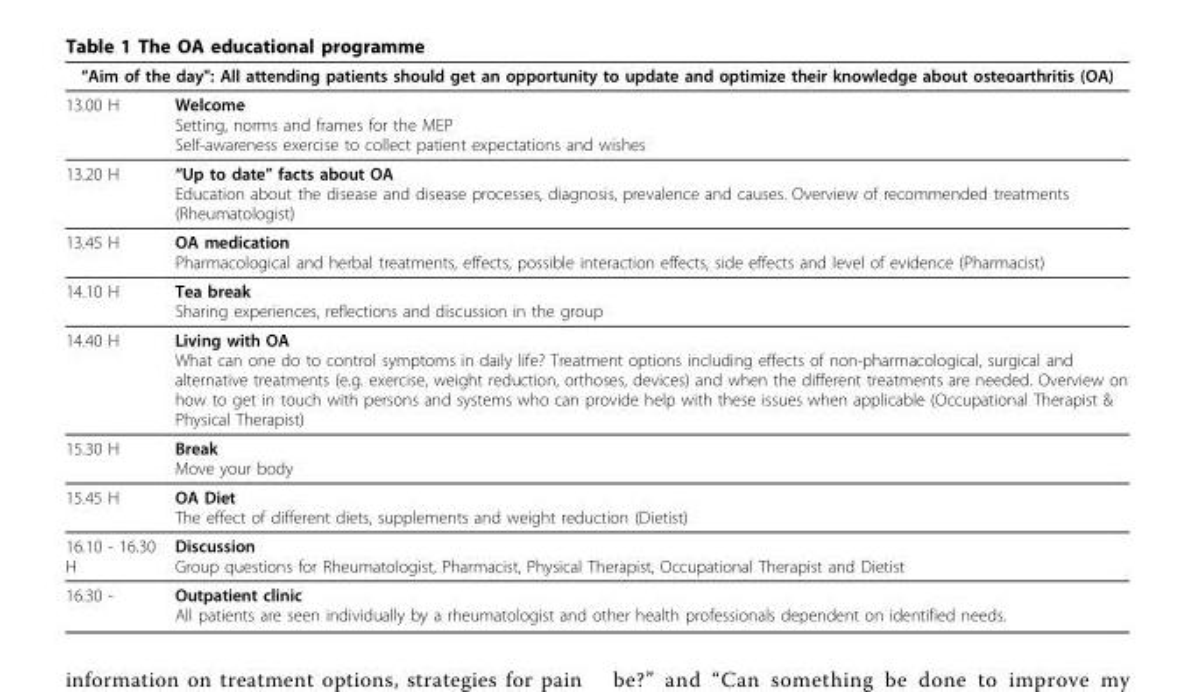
<table><thead><tr><td colspan="2">“Aim of the day&quot;: All attending patients should get an opportunity to update and optimize their knowledge about osteoarthritis (OA)</td></tr><tr><td>13.00 H</td><td>Welcome Setting, norms and frames for the MEP Self-awareness exercise to collect patient expectations and wishes</td></tr></thead><tbody><tr><td>13.20 H</td><td>“Up to date” facts about OA Education about the disease and disease processes, diagnosis, prevalence and causes. Overview of recommended treatments (Rheumatologist)</td></tr><tr><td>13.45 H</td><td>OA medication Pharmacological and herbal treatments, effects, possible interaction effects, side effects and level of evidence (Pharmacist)</td></tr><tr><td>14.10 H</td><td>Tea break Sharing experiences, reflections and discussion in the group</td></tr><tr><td>14.40 H</td><td>Living with OA What can one do to control symptoms in daily life? Treatment options including effects of non-pharmacological, surgical and alternative treatments (e.g. exercise, weight reduction, orthoses, devices) and when the different treatments are needed. Overview on how to get in touch with persons and systems who can provide help with these issues when applicable (Occupational Therapist &amp; Physical Therapist)</td></tr><tr><td>15.30 H</td><td>Break Move your body</td></tr><tr><td>15.45 H</td><td>OA Diet The effect of different diets, supplements and weight reduction (Dietist)</td></tr><tr><td>16.10 - 16.30 H</td><td>Discussion Group questions for Rheumatologist, Pharmacist, Physical Therapist, Occupational Therapist and Dietist</td></tr><tr><td>16.30 -</td><td>Outpatient clinic All patients are seen individually by a rheumatologist and other health professionals dependent on identified needs.</td></tr></tbody></table>